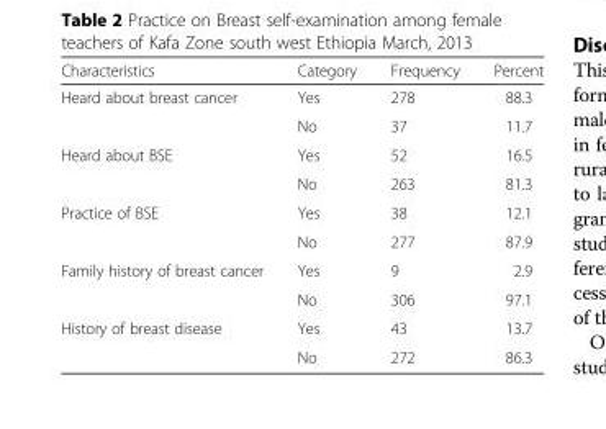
<table><thead><tr><td>Characteristics</td><td>Category</td><td>Frequency</td><td>Percent</td></tr></thead><tbody><tr><td rowspan="2">Heard about breast cancer</td><td>Yes</td><td>278</td><td>88.3</td></tr><tr><td>No</td><td>37</td><td>11.7</td></tr><tr><td rowspan="2">Heard about BSE</td><td>Yes</td><td>52</td><td>16.5</td></tr><tr><td>No</td><td>263</td><td>81.3</td></tr><tr><td rowspan="2">Practice of BSE</td><td>Yes</td><td>38</td><td>12.1</td></tr><tr><td>No</td><td>277</td><td>87.9</td></tr><tr><td rowspan="2">Family history of breast cancer</td><td>Yes</td><td>9</td><td>2.9</td></tr><tr><td>No</td><td>306</td><td>97.1</td></tr><tr><td rowspan="2">History of breast disease</td><td>Yes</td><td>43</td><td>13.7</td></tr><tr><td>No</td><td>272</td><td>86.3</td></tr></tbody></table>